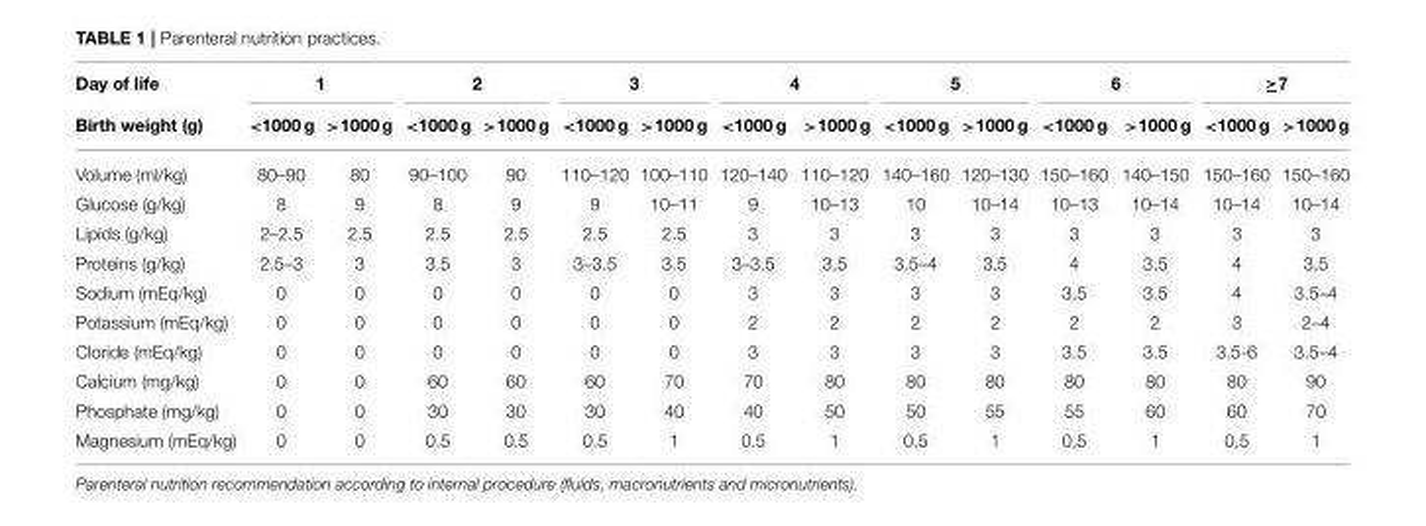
<table><thead><tr><td rowspan="2">Day of life Birth weight (g)</td><td colspan="2">1</td><td colspan="2">2</td><td colspan="2">3</td><td colspan="2">4</td><td colspan="2">5</td><td colspan="2">6</td><td colspan="2">≥7</td></tr><tr><td>&lt;1000 g</td><td>&gt;1000 g</td><td>&lt;1000 g</td><td>&gt;1000 g</td><td>&lt;1000 g</td><td>&gt;1000 g</td><td>&lt;1000 g</td><td>&gt;1000 g</td><td>&lt;1000 g</td><td>&gt;1000 g</td><td>&lt;1000 g</td><td>&gt;1000 g</td><td>&lt;1000 g</td><td>&gt;1000 g</td></tr></thead><tbody><tr><td>Volume (ml/kg)</td><td>80–90</td><td>80</td><td>90–100</td><td>90</td><td>110–120</td><td>100–110</td><td>120–140</td><td>110–120</td><td>140–160</td><td>120–130</td><td>150–160</td><td>140–150</td><td>150–160</td><td>150–160</td></tr><tr><td>Glucose (g/kg)</td><td>8</td><td>9</td><td>8</td><td>9</td><td>9</td><td>10–11</td><td>9</td><td>10–13</td><td>10</td><td>10–14</td><td>10–13</td><td>10–14</td><td>10–14</td><td>10–14</td></tr><tr><td>Lipids (g/kg)</td><td>2–2.5</td><td>2.5</td><td>2.5</td><td>2.5</td><td>2.5</td><td>2.5</td><td>3</td><td>3</td><td>3</td><td>3</td><td>3</td><td>3</td><td>3</td><td>3</td></tr><tr><td>Proteins (g/kg)</td><td>2.5–3</td><td>3</td><td>3.5</td><td>3</td><td>3–3.5</td><td>3.5</td><td>3–3.5</td><td>3,5</td><td>3.5–4</td><td>3,5</td><td>4</td><td>3,5</td><td>4</td><td>3,5</td></tr><tr><td>Sodium (mEq/kg)</td><td>0</td><td>0</td><td>0</td><td>0</td><td>0</td><td>0</td><td>3</td><td>3</td><td>3</td><td>3</td><td>3,5</td><td>3.5</td><td>4</td><td>3.5–4</td></tr><tr><td>Potassium (mEq/kg)</td><td>0</td><td>0</td><td>0</td><td>0</td><td>0</td><td>0</td><td>2</td><td>2</td><td>2</td><td>2</td><td>2</td><td>2</td><td>3</td><td>2–4</td></tr><tr><td>Cloride (mEq/kg)</td><td>0</td><td>0</td><td>0</td><td>0</td><td>0</td><td>0</td><td>3</td><td>3</td><td>3</td><td>3</td><td>3.5</td><td>3.5</td><td>3.5-6</td><td>3.5–4</td></tr><tr><td>Calcium (mg/kg)</td><td>0</td><td>0</td><td>60</td><td>60</td><td>60</td><td>70</td><td>70</td><td>80</td><td>80</td><td>80</td><td>80</td><td>80</td><td>80</td><td>90</td></tr><tr><td>Phosphate (mg/kg)</td><td>0</td><td>0</td><td>30</td><td>30</td><td>30</td><td>40</td><td>40</td><td>50</td><td>50</td><td>55</td><td>55</td><td>60</td><td>60</td><td>70</td></tr><tr><td>Magnesium (mEq/kg)</td><td>0</td><td>0</td><td>0.5</td><td>0.5</td><td>0.5</td><td>1</td><td>0.5</td><td>1</td><td>0,5</td><td>1</td><td>0,5</td><td>1</td><td>0,5</td><td>1</td></tr></tbody></table>